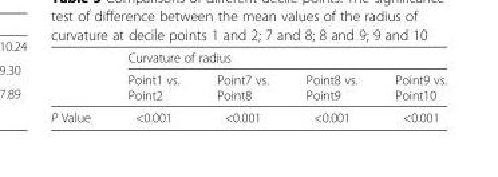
<table><thead><tr><td rowspan="2"></td><td colspan="4">Curvature of radius</td></tr><tr><td>Point1 vs. Point2</td><td>Point7 vs. Point8</td><td>Point8 vs. Point9</td><td>Point9 vs. Point10</td></tr></thead><tbody><tr><td>P Value</td><td>&lt;0.001</td><td>&lt;0.001</td><td>&lt;0.001</td><td>&lt;0.001</td></tr></tbody></table>